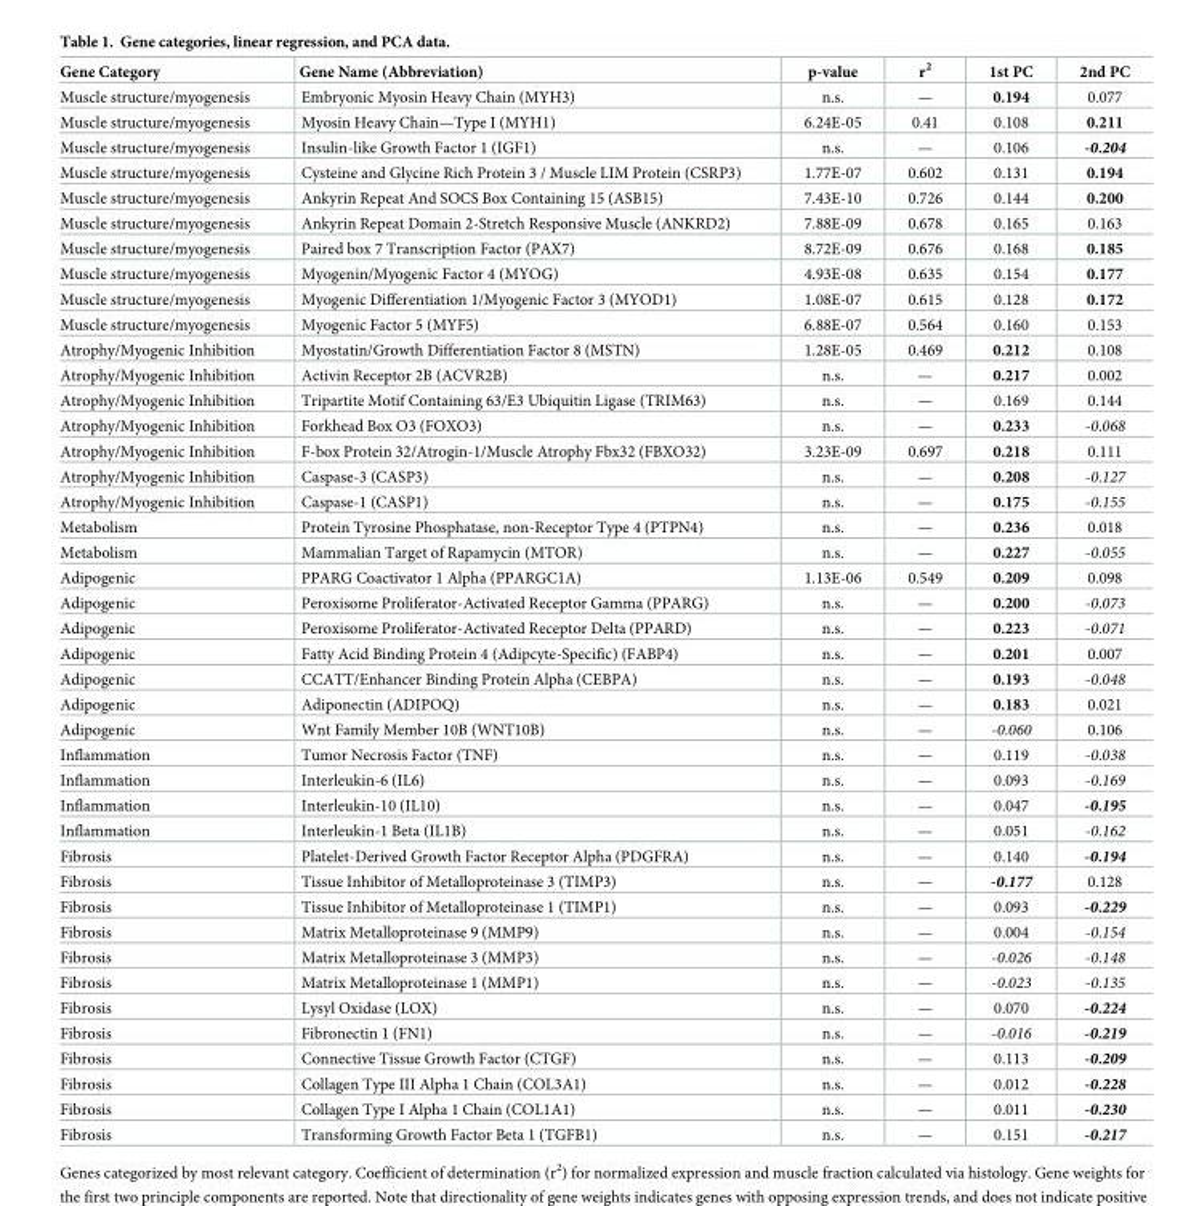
<table><thead><tr><td>Gene Category</td><td>Gene Name (Abbreviation)</td><td>p-value</td><td>r<sup>2</sup></td><td>1st PC</td><td>2nd PC</td></tr></thead><tbody><tr><td>Muscle structure/myogenesis</td><td>Embryonic Myosin Heavy Chain (MYH3)</td><td>n.s.</td><td>—</td><td>0.194</td><td>0.077</td></tr><tr><td>Muscle structure/myogenesis</td><td>Myosin Heavy Chain—Type I (MYH1)</td><td>6.24E-05</td><td>0.41</td><td>0.108</td><td>0.211</td></tr><tr><td>Muscle structure/myogenesis</td><td>Insulin-like Growth Factor 1 (IGF1)</td><td>n.s.</td><td>—</td><td>0.106</td><td>-0.204</td></tr><tr><td>Muscle structure/myogenesis</td><td>Cysteine and Glycine Rich Protein 3 / Muscle LIM Protein (CSRP3)</td><td>1.77E-07</td><td>0.602</td><td>0.131</td><td>0.194</td></tr><tr><td>Muscle structure/myogenesis</td><td>Ankyrin Repeat And SOCS Box Containing 15 (ASB15)</td><td>7.43E-10</td><td>0.726</td><td>0.144</td><td>0.200</td></tr><tr><td>Muscle structure/myogenesis</td><td>Ankyrin Repeat Domain 2-Stretch Responsive Muscle (ANKRD2)</td><td>7.88E-09</td><td>0.678</td><td>0.165</td><td>0.163</td></tr><tr><td>Muscle structure/myogenesis</td><td>Paired box 7 Transcription Factor (PAX7)</td><td>8.72E-09</td><td>0.676</td><td>0.168</td><td>0.185</td></tr><tr><td>Muscle structure/myogenesis</td><td>Myogenin/Myogenic Factor 4 (MYOG)</td><td>4.93E-08</td><td>0.635</td><td>0.154</td><td>0.177</td></tr><tr><td>Muscle structure/myogenesis</td><td>Myogenic Differentiation 1/Myogenic Factor 3 (MYOD1)</td><td>1.08E-07</td><td>0.615</td><td>0.128</td><td>0.172</td></tr><tr><td>Muscle structure/myogenesis</td><td>Myogenic Factor 5 (MYF5)</td><td>6.88E-07</td><td>0.564</td><td>0.160</td><td>0.153</td></tr><tr><td>Atrophy/Myogenic Inhibition</td><td>Myostatin/Growth Differentiation Factor 8 (MSTN)</td><td>1.28E-05</td><td>0.469</td><td>0.212</td><td>0.108</td></tr><tr><td>Atrophy/Myogenic Inhibition</td><td>Activin Receptor 2B (ACVR2B)</td><td>n.s.</td><td>—</td><td>0.217</td><td>0.002</td></tr><tr><td>Atrophy/Myogenic Inhibition</td><td>Tripartite Motif Containing 63/E3 Ubiquitin Ligase (TRIM63)</td><td>n.s.</td><td>—</td><td>0.169</td><td>0.144</td></tr><tr><td>Atrophy/Myogenic Inhibition</td><td>Forkhead Box O3 (FOXO3)</td><td>n.s.</td><td>—</td><td>0.233</td><td>-0.068</td></tr><tr><td>Atrophy/Myogenic Inhibition</td><td>F-box Protein 32/Atrogin-1/Muscle Atrophy Fbx32 (FBXO32)</td><td>3.23E-09</td><td>0.697</td><td>0.218</td><td>0.111</td></tr><tr><td>Atrophy/Myogenic Inhibition</td><td>Caspase-3 (CASP3)</td><td>n.s.</td><td>—</td><td>0.208</td><td>-0.127</td></tr><tr><td>Atrophy/Myogenic Inhibition</td><td>Caspase-1 (CASP1)</td><td>n.s.</td><td>—</td><td>0.175</td><td>-0.155</td></tr><tr><td>Metabolism</td><td>Protein Tyrosine Phosphatase, non-Receptor Type 4 (PTPN4)</td><td>n.s.</td><td>—</td><td>0.236</td><td>0.018</td></tr><tr><td>Metabolism</td><td>Mammalian Target of Rapamycin (MTOR)</td><td>n.s.</td><td>—</td><td>0.227</td><td>-0.055</td></tr><tr><td>Adipogenic</td><td>PPARG Coactivator 1 Alpha (PPARGC1A)</td><td>1.13E-06</td><td>0.549</td><td>0.209</td><td>0.098</td></tr><tr><td>Adipogenic</td><td>Peroxisome Proliferator-Activated Receptor Gamma (PPARG)</td><td>n.s.</td><td>—</td><td>0.200</td><td>-0.073</td></tr><tr><td>Adipogenic</td><td>Peroxisome Proliferator-Activated Receptor Delta (PPARD)</td><td>n.s.</td><td>—</td><td>0.223</td><td>-0.071</td></tr><tr><td>Adipogenic</td><td>Fatty Acid Binding Protein 4 (Adipcyte-Specific) (FABP4)</td><td>n.s.</td><td>—</td><td>0.201</td><td>0.007</td></tr><tr><td>Adipogenic</td><td>CCATT/Enhancer Binding Protein Alpha (CEBPA)</td><td>n.s.</td><td>—</td><td>0.193</td><td>-0.048</td></tr><tr><td>Adipogenic</td><td>Adiponectin (ADIPOQ)</td><td>n.s.</td><td>—</td><td>0.183</td><td>0.021</td></tr><tr><td>Adipogenic</td><td>Wnt Family Member 10B (WNT10B)</td><td>n.s.</td><td>—</td><td>-0.060</td><td>0.106</td></tr><tr><td>Inflammation</td><td>Tumor Necrosis Factor (TNF)</td><td>n.s.</td><td>—</td><td>0.119</td><td>-0.038</td></tr><tr><td>Inflammation</td><td>Interleukin-6 (IL6)</td><td>n.s.</td><td>—</td><td>0.093</td><td>-0.169</td></tr><tr><td>Inflammation</td><td>Interleukin-10 (IL10)</td><td>n.s.</td><td>—</td><td>0.047</td><td>-0.195</td></tr><tr><td>Inflammation</td><td>Interleukin-1 Beta (IL1B)</td><td>n.s.</td><td>—</td><td>0.051</td><td>-0.162</td></tr><tr><td>Fibrosis</td><td>Platelet-Derived Growth Factor Receptor Alpha (PDGFRA)</td><td>n.s.</td><td>—</td><td>0.140</td><td>-0.194</td></tr><tr><td>Fibrosis</td><td>Tissue Inhibitor of Metalloproteinase 3 (TIMP3)</td><td>n.s.</td><td>—</td><td>-0.177</td><td>0.128</td></tr><tr><td>Fibrosis</td><td>Tissue Inhibitor of Metalloproteinase 1 (TIMP1)</td><td>n.s.</td><td>—</td><td>0.093</td><td>-0.229</td></tr><tr><td>Fibrosis</td><td>Matrix Metalloproteinase 9 (MMP9)</td><td>n.s.</td><td>—</td><td>0.004</td><td>-0.154</td></tr><tr><td>Fibrosis</td><td>Matrix Metalloproteinase 3 (MMP3)</td><td>n.s.</td><td>—</td><td>-0.026</td><td>-0.148</td></tr><tr><td>Fibrosis</td><td>Matrix Metalloproteinase 1 (MMP1)</td><td>n.s.</td><td>—</td><td>-0.023</td><td>-0.135</td></tr><tr><td>Fibrosis</td><td>Lysyl Oxidase (LOX)</td><td>n.s.</td><td>—</td><td>0.070</td><td>-0.224</td></tr><tr><td>Fibrosis</td><td>Fibronectin 1 (FN1)</td><td>n.s.</td><td>—</td><td>-0.016</td><td>-0.219</td></tr><tr><td>Fibrosis</td><td>Connective Tissue Growth Factor (CTGF)</td><td>n.s.</td><td>—</td><td>0.113</td><td>-0.209</td></tr><tr><td>Fibrosis</td><td>Collagen Type III Alpha 1 Chain (COL3A1)</td><td>n.s.</td><td>—</td><td>0.012</td><td>-0.228</td></tr><tr><td>Fibrosis</td><td>Collagen Type I Alpha 1 Chain (COL1A1)</td><td>n.s.</td><td>—</td><td>0.011</td><td>-0.230</td></tr><tr><td>Fibrosis</td><td>Transforming Growth Factor Beta 1 (TGFB1)</td><td>n.s.</td><td>—</td><td>0.151</td><td>-0.217</td></tr></tbody></table>